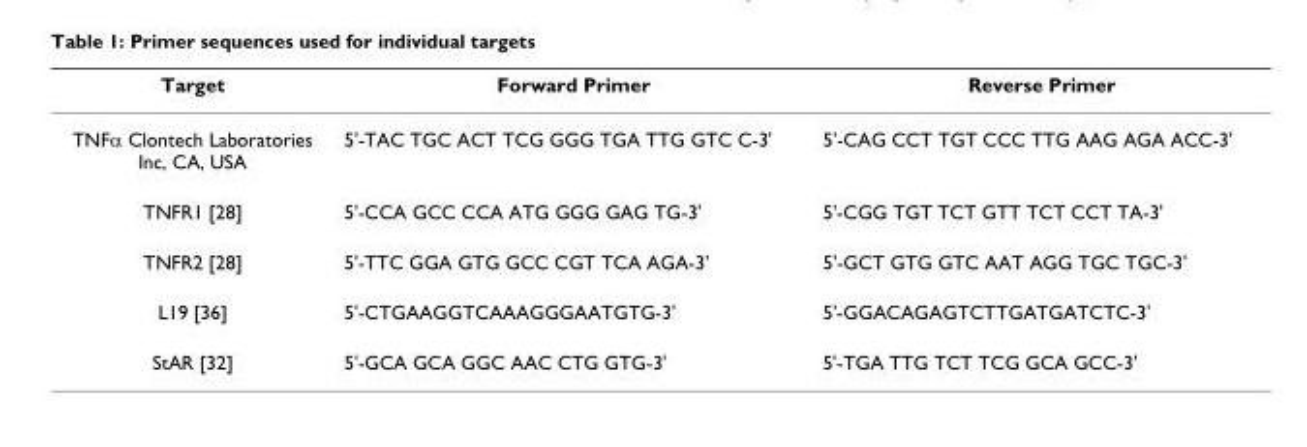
<table><thead><tr><td>Target</td><td>Forward Primer</td><td>Reverse Primer</td></tr></thead><tbody><tr><td>TNFα Clontech Laboratories Inc, CA, USA</td><td>5&#x27;-TAC TGC ACT TCG GGG TGA TTG GTC C-3&#x27;</td><td>5&#x27;-CAG CCT TGT CCC TTG AAG AGA ACC-3&#x27;</td></tr><tr><td>TNFR1 [28]</td><td>5&#x27;-CCA GCC CCA ATG GGG GAG TG-3&#x27;</td><td>5&#x27;-CGG TGT TCT GTT TCT CCT TA-3&#x27;</td></tr><tr><td>TNFR2 [28]</td><td>5&#x27;-TTC GGA GTG GCC CGT TCA AGA-3&#x27;</td><td>5&#x27;-GCT GTG GTC AAT AGG TGC TGC-3&#x27;</td></tr><tr><td>L19 [36]</td><td>5&#x27;-CTGAAGGTCAAAGGGAATGTG-3&#x27;</td><td>5&#x27;-GGACAGAGTCTTGATGATCTC-3&#x27;</td></tr><tr><td>StAR [32]</td><td>5&#x27;-GCA GCA GGC AAC CTG GTG-3&#x27;</td><td>5&#x27;-TGA TTG TCT TCG GCA GCC-3&#x27;</td></tr></tbody></table>